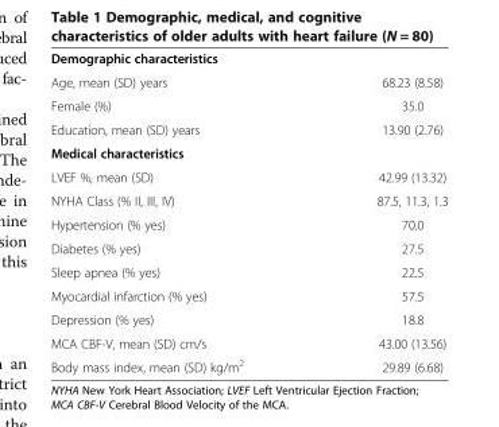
<table><tbody><tr><td colspan="2">Demographic characteristics</td></tr><tr><td>Age, mean (SD) years</td><td>68.23 (8.58)</td></tr><tr><td>Female (%)</td><td>35.0</td></tr><tr><td>Education, mean (SD) years</td><td>13.90 (2.76)</td></tr><tr><td colspan="2">Medical characteristics</td></tr><tr><td>LVEF %, mean (SD)</td><td>42.99 (13.32)</td></tr><tr><td>NYHA Class (% II, III, IV)</td><td>87.5, 11.3, 1.3</td></tr><tr><td>Hypertension (% yes)</td><td>70.0</td></tr><tr><td>Diabetes (% yes)</td><td>27.5</td></tr><tr><td>Sleep apnea (% yes)</td><td>22.5</td></tr><tr><td>Myocardial infarction (% yes)</td><td>57.5</td></tr><tr><td>Depression (% yes)</td><td>18.8</td></tr><tr><td>MCA CBF-V, mean (SD) cm/s</td><td>43.00 (13.56)</td></tr><tr><td>Body mass index, mean (SD) kg/m<sup>2</sup></td><td>29.89 (6.68)</td></tr></tbody></table>